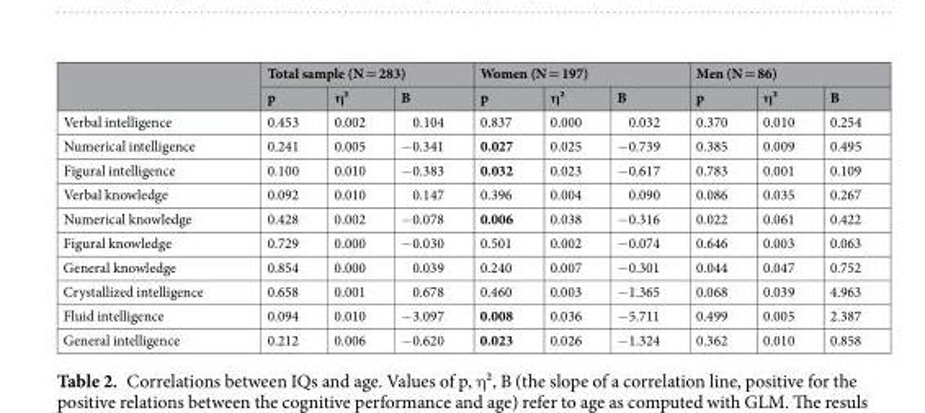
<table><thead><tr><td rowspan="2"></td><td colspan="3">Total sample (N = 283)</td><td colspan="3">Women (N = 197)</td><td colspan="3">Men (N = 86)</td></tr><tr><td>p</td><td>η²</td><td>B</td><td>p</td><td>η²</td><td>B</td><td>p</td><td>η²</td><td>B</td></tr></thead><tbody><tr><td>Verbal intelligence</td><td>0.453</td><td>0.002</td><td>0.104</td><td>0.837</td><td>0.000</td><td>0.032</td><td>0.370</td><td>0.010</td><td>0.254</td></tr><tr><td>Numerical intelligence</td><td>0.241</td><td>0.005</td><td>−0.341</td><td>0.027</td><td>0.025</td><td>−0.739</td><td>0.385</td><td>0.009</td><td>0.495</td></tr><tr><td>Figural intelligence</td><td>0.100</td><td>0.010</td><td>−0.383</td><td>0.032</td><td>0.023</td><td>−0.617</td><td>0.783</td><td>0.001</td><td>0.109</td></tr><tr><td>Verbal knowledge</td><td>0.092</td><td>0.010</td><td>0.147</td><td>0.396</td><td>0.004</td><td>0.090</td><td>0.086</td><td>0.035</td><td>0.267</td></tr><tr><td>Numerical knowledge</td><td>0.428</td><td>0.002</td><td>−0.078</td><td>0.006</td><td>0.038</td><td>−0.316</td><td>0.022</td><td>0.061</td><td>0.422</td></tr><tr><td>Figural knowledge</td><td>0.729</td><td>0.000</td><td>−0.030</td><td>0.501</td><td>0.002</td><td>−0.074</td><td>0.646</td><td>0.003</td><td>0.063</td></tr><tr><td>General knowledge</td><td>0.854</td><td>0.000</td><td>0.039</td><td>0.240</td><td>0.007</td><td>−0.301</td><td>0.044</td><td>0.047</td><td>0.752</td></tr><tr><td>Crystallized intelligence</td><td>0.658</td><td>0.001</td><td>0.678</td><td>0.460</td><td>0.003</td><td>−1.365</td><td>0.068</td><td>0.039</td><td>4.963</td></tr><tr><td>Fluid intelligence</td><td>0.094</td><td>0.010</td><td>−3.097</td><td>0.008</td><td>0.036</td><td>−5.711</td><td>0.499</td><td>0.005</td><td>2.387</td></tr><tr><td>General intelligence</td><td>0.212</td><td>0.006</td><td>−0.620</td><td>0.023</td><td>0.026</td><td>−1.324</td><td>0.362</td><td>0.010</td><td>0.858</td></tr></tbody></table>